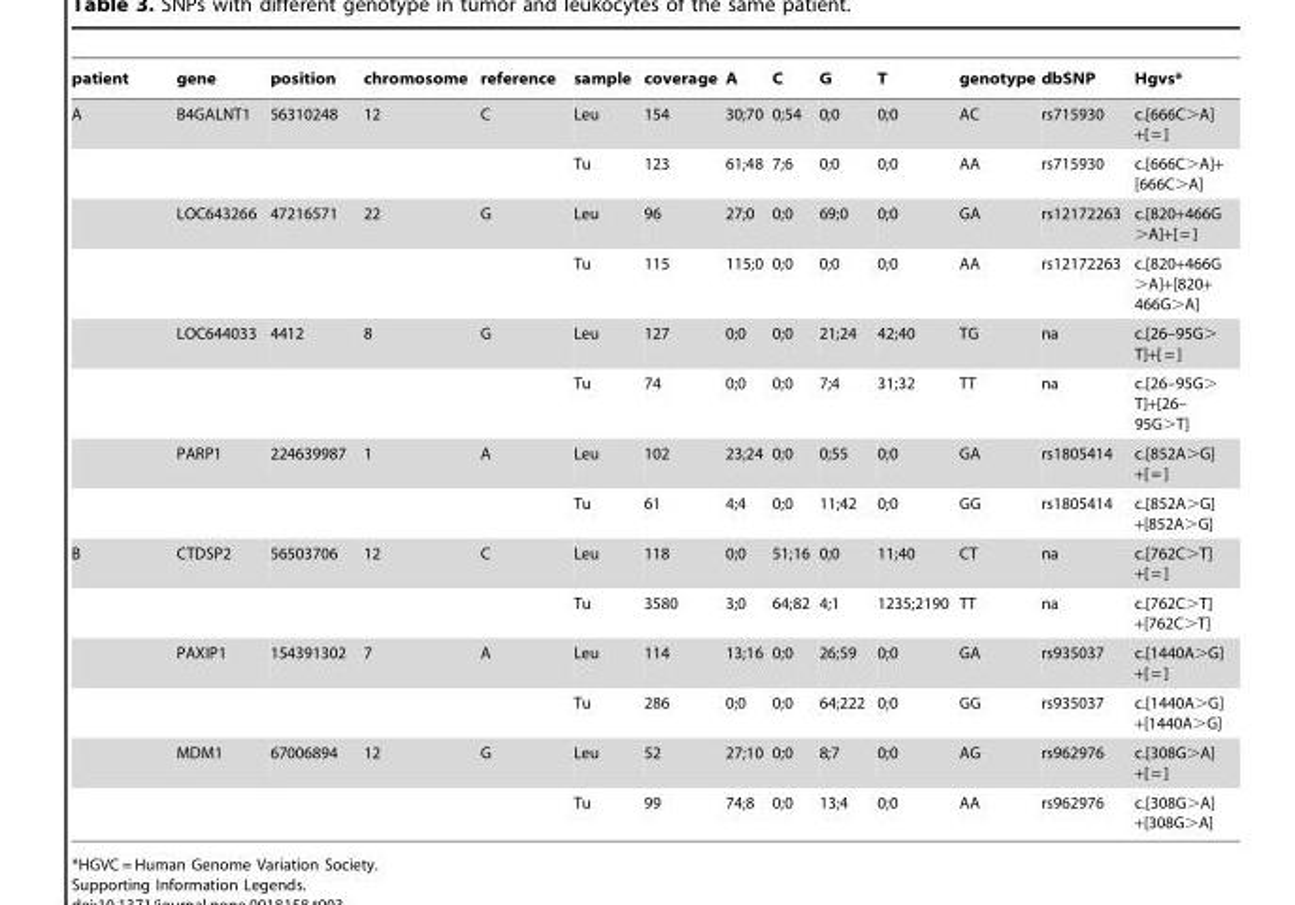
<table><thead><tr><td>patient</td><td>gene</td><td>position</td><td>chromosome</td><td>reference</td><td>sample</td><td>coverage</td><td>A</td><td>C</td><td>G</td><td>T</td><td>genotype</td><td>dbSNP</td><td>Hgvs*</td></tr></thead><tbody><tr><td rowspan="8">A</td><td>B4GALNT1</td><td>56310248</td><td>12</td><td>C</td><td>Leu</td><td>154</td><td>30;70</td><td>0;54</td><td>0;0</td><td>0;0</td><td>AC</td><td>rs715930</td><td>c.[666C&gt;A] +[ = ]</td></tr><tr><td></td><td></td><td></td><td></td><td>Tu</td><td>123</td><td>61;48</td><td>7;6</td><td>0;0</td><td>0;0</td><td>AA</td><td>rs715930</td><td>c.[666C&gt;A]+ [666C&gt;A]</td></tr><tr><td>LOC643266</td><td>47216571</td><td>22</td><td>G</td><td>Leu</td><td>96</td><td>27;0</td><td>0;0</td><td>69;0</td><td>0;0</td><td>GA</td><td>rs12172263</td><td>c.[820+466G &gt;A]+[ = ]</td></tr><tr><td></td><td></td><td></td><td></td><td>Tu</td><td>115</td><td>115;0</td><td>0;0</td><td>0;0</td><td>0;0</td><td>AA</td><td>rs12172263</td><td>c.[820+466G &gt;A]+[820+ 466G&gt;A]</td></tr><tr><td>LOC644033</td><td>4412</td><td>8</td><td>G</td><td>Leu</td><td>127</td><td>0;0</td><td>0;0</td><td>21;24</td><td>42;40</td><td>TG</td><td>na</td><td>c.[26–95G&gt; T]+[ = ]</td></tr><tr><td></td><td></td><td></td><td></td><td>Tu</td><td>74</td><td>0;0</td><td>0;0</td><td>7;4</td><td>31;32</td><td>TT</td><td>na</td><td>c.[26–95G&gt; T]+[26– 95G&gt;T]</td></tr><tr><td>PARP1</td><td>224639987</td><td>1</td><td>A</td><td>Leu</td><td>102</td><td>23;24</td><td>0;0</td><td>0;55</td><td>0;0</td><td>GA</td><td>rs1805414</td><td>c.[852A&gt;G] +[ = ]</td></tr><tr><td></td><td></td><td></td><td></td><td>Tu</td><td>61</td><td>4;4</td><td>0;0</td><td>11;42</td><td>0;0</td><td>GG</td><td>rs1805414</td><td>c.[852A&gt;G] +[852A&gt;G]</td></tr><tr><td rowspan="6">B</td><td>CTDSP2</td><td>56503706</td><td>12</td><td>C</td><td>Leu</td><td>118</td><td>0;0</td><td>51;16</td><td>0;0</td><td>11;40</td><td>CT</td><td>na</td><td>c.[762C&gt;T] +[ = ]</td></tr><tr><td></td><td></td><td></td><td></td><td>Tu</td><td>3580</td><td>3;0</td><td>64;82</td><td>4;1</td><td>1235;2190</td><td>TT</td><td>na</td><td>c.[762C&gt;T] +[762C&gt;T]</td></tr><tr><td>PAXIP1</td><td>154391302</td><td>7</td><td>A</td><td>Leu</td><td>114</td><td>13;16</td><td>0;0</td><td>26;59</td><td>0;0</td><td>GA</td><td>rs935037</td><td>c.[1440A&gt;G] +[ = ]</td></tr><tr><td></td><td></td><td></td><td></td><td>Tu</td><td>286</td><td>0;0</td><td>0;0</td><td>64;222</td><td>0;0</td><td>GG</td><td>rs935037</td><td>c.[1440A&gt;G] +[1440A&gt;G]</td></tr><tr><td>MDM1</td><td>67006894</td><td>12</td><td>G</td><td>Leu</td><td>52</td><td>27;10</td><td>0;0</td><td>8;7</td><td>0;0</td><td>AG</td><td>rs962976</td><td>c.[308G&gt;A] +[ = ]</td></tr><tr><td></td><td></td><td></td><td></td><td>Tu</td><td>99</td><td>74;8</td><td>0;0</td><td>13;4</td><td>0;0</td><td>AA</td><td>rs962976</td><td>c.[308G&gt;A] +[308G&gt;A]</td></tr></tbody></table>